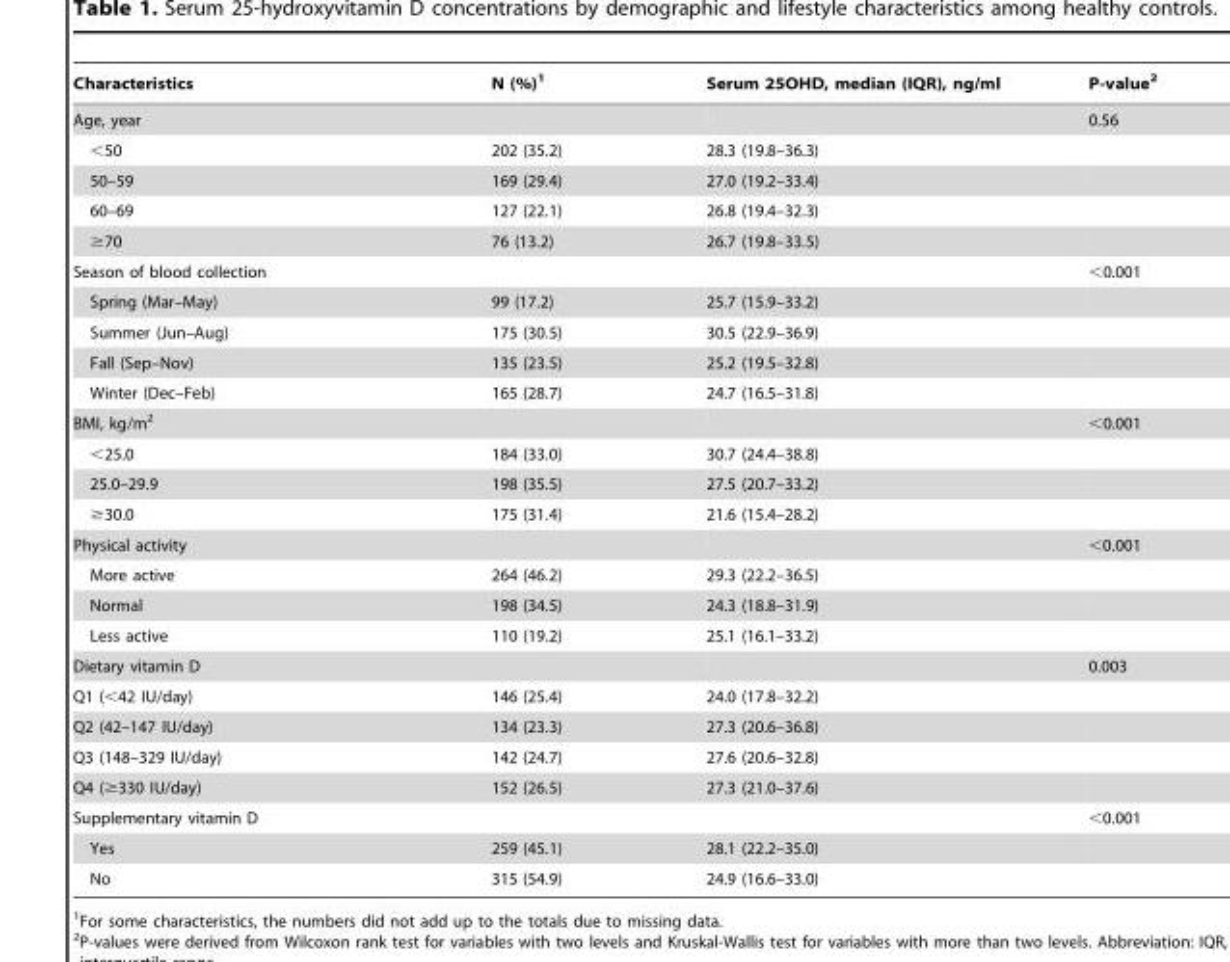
<table><thead><tr><td>Characteristics</td><td>N (%)<sup>1</sup></td><td>Serum 25OHD, median (IQR), ng/ml</td><td>P-value<sup>2</sup></td></tr></thead><tbody><tr><td>Age, year</td><td></td><td></td><td>0.56</td></tr><tr><td>&lt;50</td><td>202 (35.2)</td><td>28.3 (19.8–36.3)</td><td></td></tr><tr><td>50–59</td><td>169 (29.4)</td><td>27.0 (19.2–33.4)</td><td></td></tr><tr><td>60–69</td><td>127 (22.1)</td><td>26.8 (19.4–32.3)</td><td></td></tr><tr><td>≥70</td><td>76 (13.2)</td><td>26.7 (19.8–33.5)</td><td></td></tr><tr><td>Season of blood collection</td><td></td><td></td><td>&lt;0.001</td></tr><tr><td>Spring (Mar–May)</td><td>99 (17.2)</td><td>25.7 (15.9–33.2)</td><td></td></tr><tr><td>Summer (Jun–Aug)</td><td>175 (30.5)</td><td>30.5 (22.9–36.9)</td><td></td></tr><tr><td>Fall (Sep–Nov)</td><td>135 (23.5)</td><td>25.2 (19.5–32.8)</td><td></td></tr><tr><td>Winter (Dec–Feb)</td><td>165 (28.7)</td><td>24.7 (16.5–31.8)</td><td></td></tr><tr><td>BMI, kg/m<sup>2</sup></td><td></td><td></td><td>&lt;0.001</td></tr><tr><td>&lt;25.0</td><td>184 (33.0)</td><td>30.7 (24.4–38.8)</td><td></td></tr><tr><td>25.0–29.9</td><td>198 (35.5)</td><td>27.5 (20.7–33.2)</td><td></td></tr><tr><td>≥30.0</td><td>175 (31.4)</td><td>21.6 (15.4–28.2)</td><td></td></tr><tr><td>Physical activity</td><td></td><td></td><td>&lt;0.001</td></tr><tr><td>More active</td><td>264 (46.2)</td><td>29.3 (22.2–36.5)</td><td></td></tr><tr><td>Normal</td><td>198 (34.5)</td><td>24.3 (18.8–31.9)</td><td></td></tr><tr><td>Less active</td><td>110 (19.2)</td><td>25.1 (16.1–33.2)</td><td></td></tr><tr><td>Dietary vitamin D</td><td></td><td></td><td>0.003</td></tr><tr><td>Q1 (&lt;42 IU/day)</td><td>146 (25.4)</td><td>24.0 (17.8–32.2)</td><td></td></tr><tr><td>Q2 (42–147 IU/day)</td><td>134 (23.3)</td><td>27.3 (20.6–36.8)</td><td></td></tr><tr><td>Q3 (148–329 IU/day)</td><td>142 (24.7)</td><td>27.6 (20.6–32.8)</td><td></td></tr><tr><td>Q4 (≥330 IU/day)</td><td>152 (26.5)</td><td>27.3 (21.0–37.6)</td><td></td></tr><tr><td>Supplementary vitamin D</td><td></td><td></td><td>&lt;0.001</td></tr><tr><td>Yes</td><td>259 (45.1)</td><td>28.1 (22.2–35.0)</td><td></td></tr><tr><td>No</td><td>315 (54.9)</td><td>24.9 (16.6–33.0)</td><td></td></tr></tbody></table>